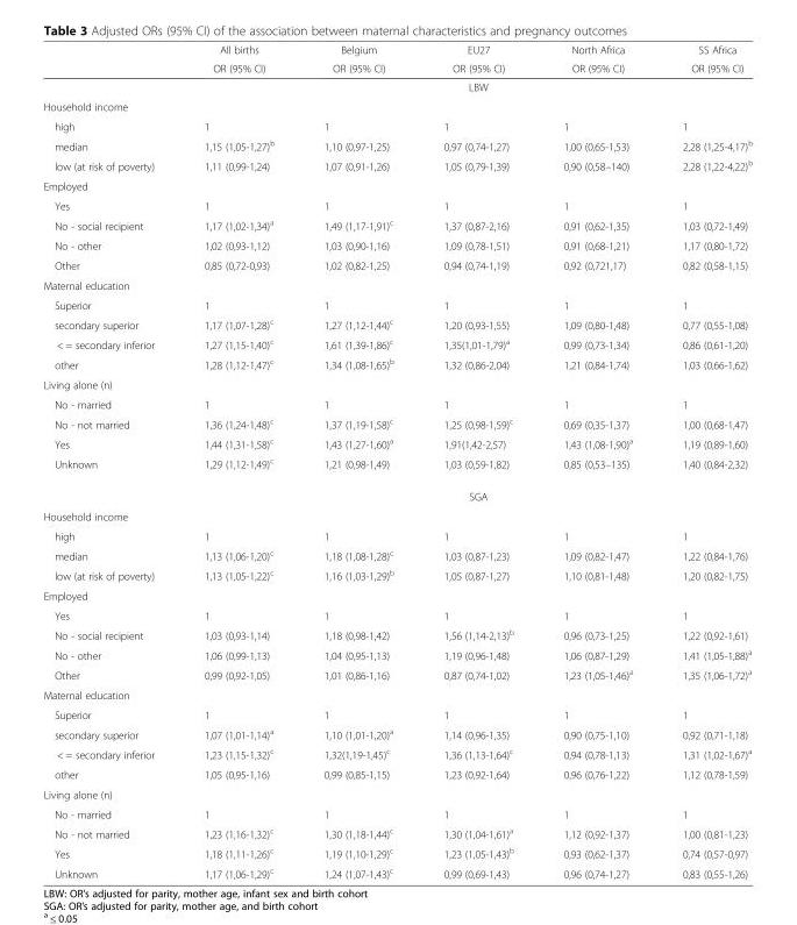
<table><thead><tr><td rowspan="2"></td><td rowspan="2">All births OR (95% CI)</td><td rowspan="2">Belgium OR (95% CI)</td><td rowspan="2">EU27 OR (95% CI)</td><td rowspan="2">North Africa OR (95% CI)</td><td rowspan="2">SS Africa OR (95% CI)</td></tr><tr></tr></thead><tbody><tr><td></td><td colspan="5">LBW</td></tr><tr><td colspan="6">Household income</td></tr><tr><td>high</td><td>1</td><td>1</td><td>1</td><td>1</td><td>1</td></tr><tr><td>median</td><td>1,15 (1,05-1,27)<sup>b</sup></td><td>1,10 (0,97-1,25)</td><td>0,97 (0,74-1,27)</td><td>1,00 (0,65-1,53)</td><td>2,28 (1,25-4,17)<sup>b</sup></td></tr><tr><td>low (at risk of poverty)</td><td>1,11 (0,99-1,24)</td><td>1,07 (0,91-1,26)</td><td>1,05 (0,79-1,39)</td><td>0,90 (0,58–140)</td><td>2,28 (1,22-4,22)<sup>b</sup></td></tr><tr><td colspan="6">Employed</td></tr><tr><td>Yes</td><td>1</td><td>1</td><td>1</td><td>1</td><td>1</td></tr><tr><td>No - social recipient</td><td>1,17 (1,02-1,34)<sup>a</sup></td><td>1,49 (1,17-1,91)<sup>c</sup></td><td>1,37 (0,87-2,16)</td><td>0,91 (0,62-1,35)</td><td>1,03 (0,72-1,49)</td></tr><tr><td>No - other</td><td>1,02 (0,93-1,12)</td><td>1,03 (0,90-1,16)</td><td>1,09 (0,78-1,51)</td><td>0,91 (0,68-1,21)</td><td>1,17 (0,80-1,72)</td></tr><tr><td>Other</td><td>0,85 (0,72-0,93)</td><td>1,02 (0,82-1,25)</td><td>0,94 (0,74-1,19)</td><td>0,92 (0,721,17)</td><td>0,82 (0,58-1,15)</td></tr><tr><td colspan="6">Maternal education</td></tr><tr><td>Superior</td><td>1</td><td>1</td><td>1</td><td>1</td><td>1</td></tr><tr><td>secondary superior</td><td>1,17 (1,07-1,28)<sup>c</sup></td><td>1,27 (1,12-1,44)<sup>c</sup></td><td>1,20 (0,93-1,55)</td><td>1,09 (0,80-1,48)</td><td>0,77 (0,55-1,08)</td></tr><tr><td>&lt; = secondary inferior</td><td>1,27 (1,15-1,40)<sup>c</sup></td><td>1,61 (1,39-1,86)<sup>c</sup></td><td>1,35(1,01-1,79)<sup>a</sup></td><td>0,99 (0,73-1,34)</td><td>0,86 (0,61-1,20)</td></tr><tr><td>other</td><td>1,28 (1,12-1,47)<sup>c</sup></td><td>1,34 (1,08-1,65)<sup>b</sup></td><td>1,32 (0,86-2,04)</td><td>1,21 (0,84-1,74)</td><td>1,03 (0,66-1,62)</td></tr><tr><td colspan="6">Living alone (n)</td></tr><tr><td>No - married</td><td>1</td><td>1</td><td>1</td><td>1</td><td>1</td></tr><tr><td>No - not married</td><td>1,36 (1,24-1,48)<sup>c</sup></td><td>1,37 (1,19-1,58)<sup>c</sup></td><td>1,25 (0,98-1,59)<sup>c</sup></td><td>0,69 (0,35-1,37)</td><td>1,00 (0,68-1,47)</td></tr><tr><td>Yes</td><td>1,44 (1,31-1,58)<sup>c</sup></td><td>1,43 (1,27-1,60)<sup>a</sup></td><td>1,91(1,42-2,57)</td><td>1,43 (1,08-1,90)<sup>a</sup></td><td>1,19 (0,89-1,60)</td></tr><tr><td rowspan="2">Unknown</td><td>1,29 (1,12-1,49)<sup>c</sup></td><td>1,21 (0,98-1,49)</td><td>1,03 (0,59-1,82)</td><td>0,85 (0,53–135)</td><td>1,40 (0,84-2,32)</td></tr><tr><td colspan="5">SGA</td></tr><tr><td colspan="6">Household income</td></tr><tr><td>high</td><td>1</td><td>1</td><td>1</td><td>1</td><td>1</td></tr><tr><td>median</td><td>1,13 (1,06-1,20)<sup>c</sup></td><td>1,18 (1,08-1,28)<sup>c</sup></td><td>1,03 (0,87-1,23)</td><td>1,09 (0,82-1,47)</td><td>1,22 (0,84-1,76)</td></tr><tr><td>low (at risk of poverty)</td><td>1,13 (1,05-1,22)<sup>c</sup></td><td>1,16 (1,03-1,29)<sup>b</sup></td><td>1,05 (0,87-1,27)</td><td>1,10 (0,81-1,48)</td><td>1,20 (0,82-1,75)</td></tr><tr><td colspan="6">Employed</td></tr><tr><td>Yes</td><td>1</td><td>1</td><td>1</td><td>1</td><td>1</td></tr><tr><td>No - social recipient</td><td>1,03 (0,93-1,14)</td><td>1,18 (0,98-1,42)</td><td>1,56 (1,14-2,13)<sup>b</sup></td><td>0,96 (0,73-1,25)</td><td>1,22 (0,92-1,61)</td></tr><tr><td>No - other</td><td>1,06 (0,99-1,13)</td><td>1,04 (0,95-1,13)</td><td>1,19 (0,96-1,48)</td><td>1,06 (0,87-1,29)</td><td>1,41 (1,05-1,88)<sup>a</sup></td></tr><tr><td>Other</td><td>0,99 (0,92-1,05)</td><td>1,01 (0,86-1,16)</td><td>0,87 (0,74-1,02)</td><td>1,23 (1,05-1,46)<sup>a</sup></td><td>1,35 (1,06-1,72)<sup>a</sup></td></tr><tr><td colspan="6">Maternal education</td></tr><tr><td>Superior</td><td>1</td><td>1</td><td>1</td><td>1</td><td>1</td></tr><tr><td>secondary superior</td><td>1,07 (1,01-1,14)<sup>a</sup></td><td>1,10 (1,01-1,20)<sup>a</sup></td><td>1,14 (0,96-1,35)</td><td>0,90 (0,75-1,10)</td><td>0,92 (0,71-1,18)</td></tr><tr><td>&lt; = secondary inferior</td><td>1,23 (1,15-1,32)<sup>c</sup></td><td>1,32(1,19-1,45)<sup>c</sup></td><td>1,36 (1,13-1,64)<sup>c</sup></td><td>0,94 (0,78-1,13)</td><td>1,31 (1,02-1,67)<sup>a</sup></td></tr><tr><td>other</td><td>1,05 (0,95-1,16)</td><td>0,99 (0,85-1,15)</td><td>1,23 (0,92-1,64)</td><td>0,96 (0,76-1,22)</td><td>1,12 (0,78-1,59)</td></tr><tr><td colspan="6">Living alone (n)</td></tr><tr><td>No - married</td><td>1</td><td>1</td><td>1</td><td>1</td><td>1</td></tr><tr><td>No - not married</td><td>1,23 (1,16-1,32)<sup>c</sup></td><td>1,30 (1,18-1,44)<sup>c</sup></td><td>1,30 (1,04-1,61)<sup>a</sup></td><td>1,12 (0,92-1,37)</td><td>1,00 (0,81-1,23)</td></tr><tr><td>Yes</td><td>1,18 (1,11-1,26)<sup>c</sup></td><td>1,19 (1,10-1,29)<sup>c</sup></td><td>1,23 (1,05-1,43)<sup>b</sup></td><td>0,93 (0,62-1,37)</td><td>0,74 (0,57-0,97)</td></tr><tr><td>Unknown</td><td>1,17 (1,06-1,29)<sup>c</sup></td><td>1,24 (1,07-1,43)<sup>c</sup></td><td>0,99 (0,69-1,43)</td><td>0,96 (0,74-1,27)</td><td>0,83 (0,55-1,26)</td></tr></tbody></table>